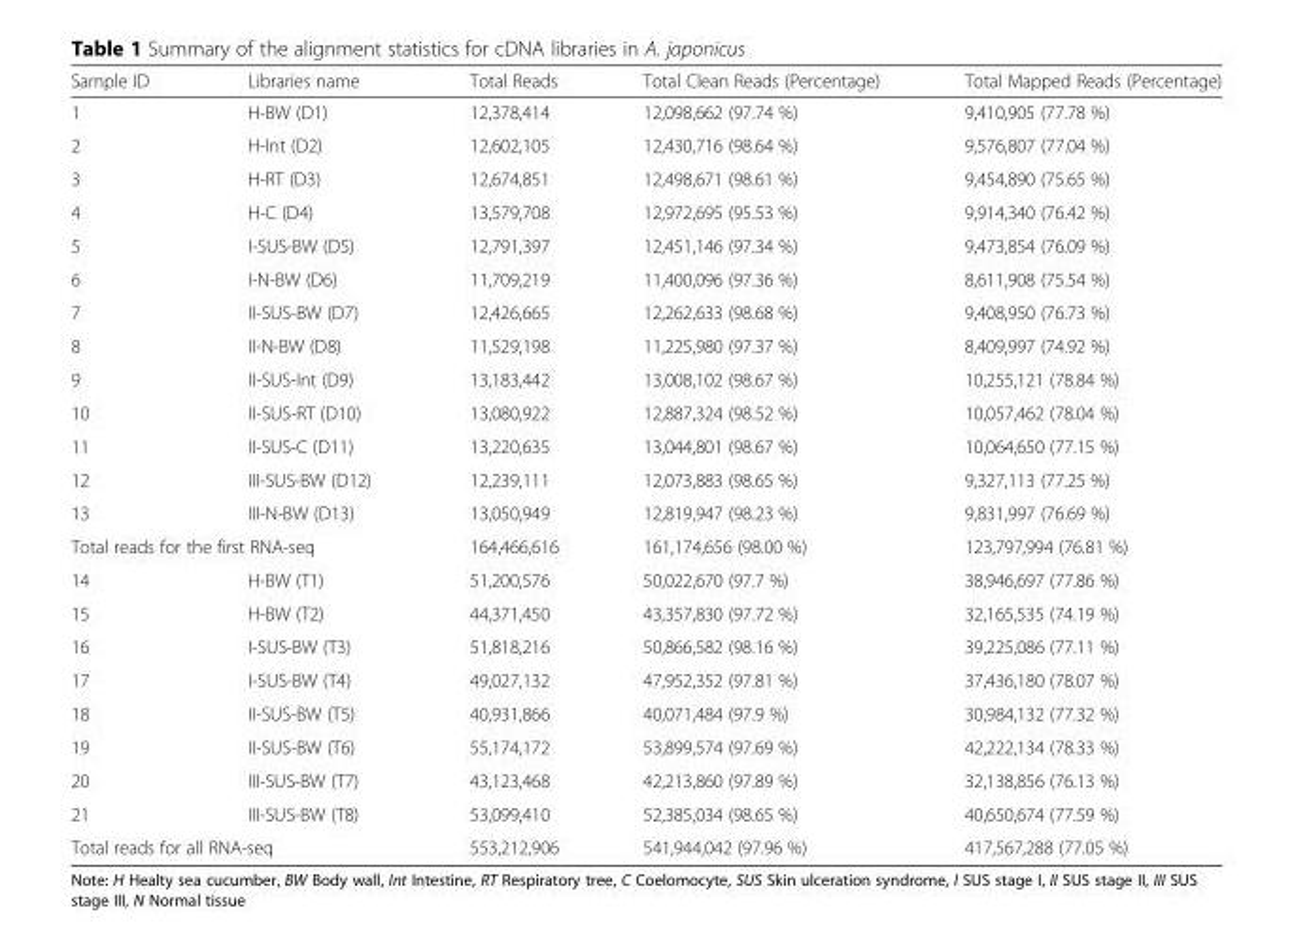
<table><thead><tr><td>Sample ID</td><td>Libraries name</td><td>Total Reads</td><td>Total Clean Reads (Percentage)</td><td>Total Mapped Reads (Percentage)</td></tr></thead><tbody><tr><td>1</td><td>H-BW (D1)</td><td>12,378,414</td><td>12,098,662 (97.74 %)</td><td>9,410,905 (77.78 %)</td></tr><tr><td>2</td><td>H-Int (D2)</td><td>12,602,105</td><td>12,430,716 (98.64 %)</td><td>9,576,807 (77.04 %)</td></tr><tr><td>3</td><td>H-RT (D3)</td><td>12,674,851</td><td>12,498,671 (98.61 %)</td><td>9,454,890 (75.65 %)</td></tr><tr><td>4</td><td>H-C (D4)</td><td>13,579,708</td><td>12,972,695 (95.53 %)</td><td>9,914,340 (76.42 %)</td></tr><tr><td>5</td><td>I-SUS-BW (D5)</td><td>12,791,397</td><td>12,451,146 (97.34 %)</td><td>9,473,854 (76.09 %)</td></tr><tr><td>6</td><td>I-N-BW (D6)</td><td>11,709,219</td><td>11,400,096 (97.36 %)</td><td>8,611,908 (75.54 %)</td></tr><tr><td>7</td><td>II-SUS-BW (D7)</td><td>12,426,665</td><td>12,262,633 (98.68 %)</td><td>9,408,950 (76.73 %)</td></tr><tr><td>8</td><td>II-N-BW (D8)</td><td>11,529,198</td><td>11,225,980 (97.37 %)</td><td>8,409,997 (74.92 %)</td></tr><tr><td>9</td><td>II-SUS-Int (D9)</td><td>13,183,442</td><td>13,008,102 (98.67 %)</td><td>10,255,121 (78.84 %)</td></tr><tr><td>10</td><td>II-SUS-RT (D10)</td><td>13,080,922</td><td>12,887,324 (98.52 %)</td><td>10,057,462 (78.04 %)</td></tr><tr><td>11</td><td>II-SUS-C (D11)</td><td>13,220,635</td><td>13,044,801 (98.67 %)</td><td>10,064,650 (77.15 %)</td></tr><tr><td>12</td><td>III-SUS-BW (D12)</td><td>12,239,111</td><td>12,073,883 (98.65 %)</td><td>9,327,113 (77.25 %)</td></tr><tr><td>13</td><td>III-N-BW (D13)</td><td>13,050,949</td><td>12,819,947 (98.23 %)</td><td>9,831,997 (76.69 %)</td></tr><tr><td colspan="2">Total reads for the first RNA-seq</td><td>164,466,616</td><td>161,174,656 (98.00 %)</td><td>123,797,994 (76.81 %)</td></tr><tr><td>14</td><td>H-BW (T1)</td><td>51,200,576</td><td>50,022,670 (97.7 %)</td><td>38,946,697 (77.86 %)</td></tr><tr><td>15</td><td>H-BW (T2)</td><td>44,371,450</td><td>43,357,830 (97.72 %)</td><td>32,165,535 (74.19 %)</td></tr><tr><td>16</td><td>I-SUS-BW (T3)</td><td>51,818,216</td><td>50,866,582 (98.16 %)</td><td>39,225,086 (77.11 %)</td></tr><tr><td>17</td><td>I-SUS-BW (T4)</td><td>49,027,132</td><td>47,952,352 (97.81 %)</td><td>37,436,180 (78.07 %)</td></tr><tr><td>18</td><td>II-SUS-BW (T5)</td><td>40,931,866</td><td>40,071,484 (97.9 %)</td><td>30,984,132 (77.32 %)</td></tr><tr><td>19</td><td>II-SUS-BW (T6)</td><td>55,174,172</td><td>53,899,574 (97.69 %)</td><td>42,222,134 (78.33 %)</td></tr><tr><td>20</td><td>III-SUS-BW (T7)</td><td>43,123,468</td><td>42,213,860 (97.89 %)</td><td>32,138,856 (76.13 %)</td></tr><tr><td>21</td><td>III-SUS-BW (T8)</td><td>53,099,410</td><td>52,385,034 (98.65 %)</td><td>40,650,674 (77.59 %)</td></tr><tr><td colspan="2">Total reads for all RNA-seq</td><td>553,212,906</td><td>541,944,042 (97.96 %)</td><td>417,567,288 (77.05 %)</td></tr></tbody></table>